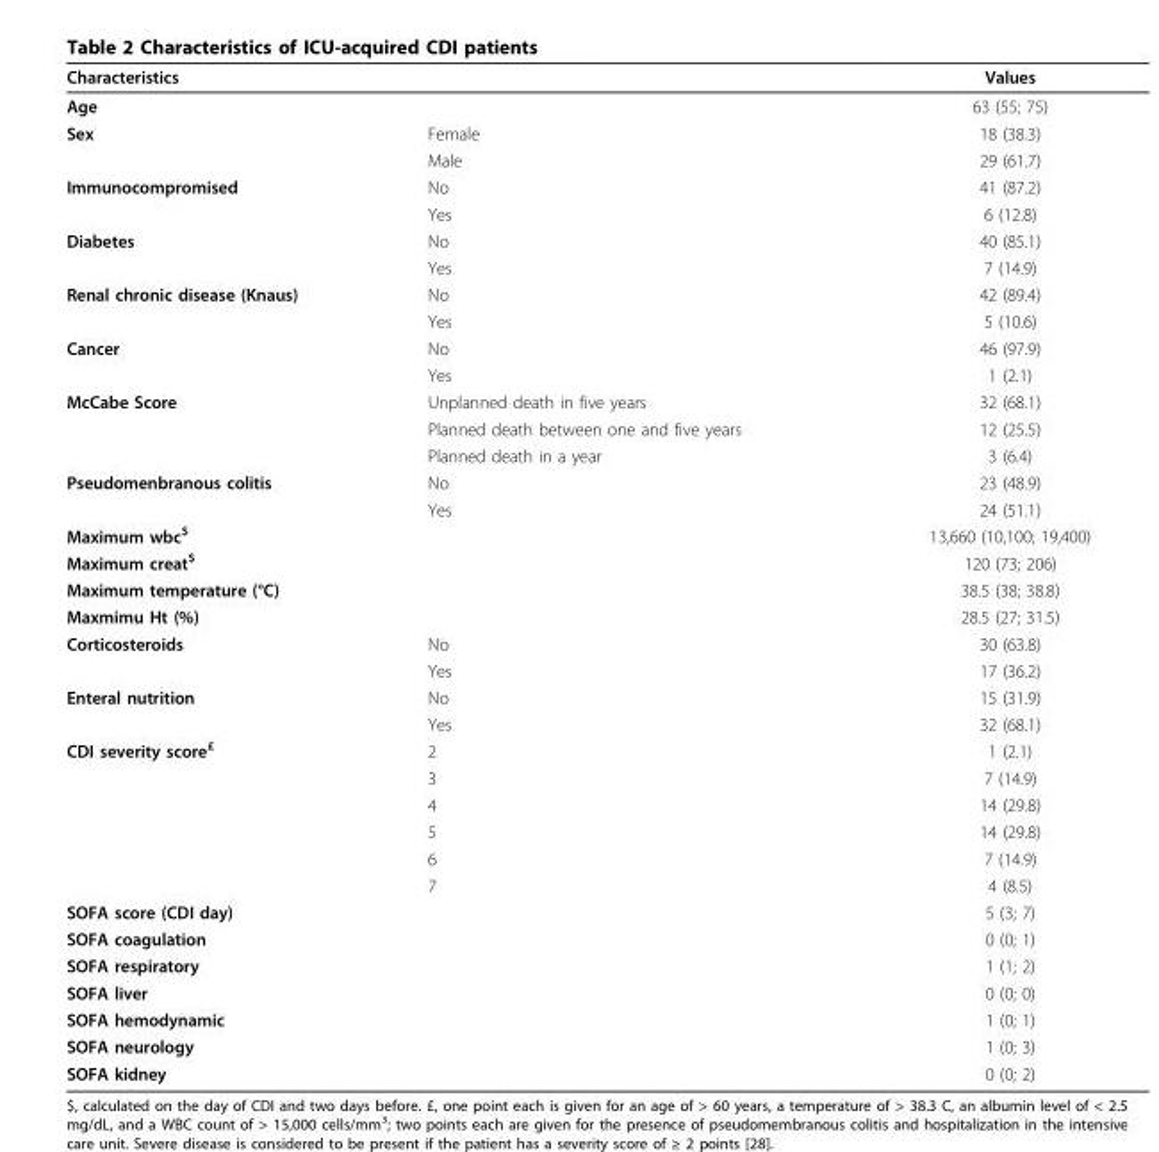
<table><thead><tr><td>Characteristics</td><td></td><td>Values</td></tr></thead><tbody><tr><td>Age</td><td></td><td>63 (55; 75)</td></tr><tr><td rowspan="2">Sex</td><td>Female</td><td>18 (38.3)</td></tr><tr><td>Male</td><td>29 (61.7)</td></tr><tr><td rowspan="2">Immunocompromised</td><td>No</td><td>41 (87.2)</td></tr><tr><td>Yes</td><td>6 (12.8)</td></tr><tr><td rowspan="2">Diabetes</td><td>No</td><td>40 (85.1)</td></tr><tr><td>Yes</td><td>7 (14.9)</td></tr><tr><td rowspan="2">Renal chronic disease (Knaus)</td><td>No</td><td>42 (89.4)</td></tr><tr><td>Yes</td><td>5 (10.6)</td></tr><tr><td rowspan="2">Cancer</td><td>No</td><td>46 (97.9)</td></tr><tr><td>Yes</td><td>1 (2.1)</td></tr><tr><td rowspan="3">McCabe Score</td><td>Unplanned death in five years</td><td>32 (68.1)</td></tr><tr><td>Planned death between one and five years</td><td>12 (25.5)</td></tr><tr><td>Planned death in a year</td><td>3 (6.4)</td></tr><tr><td rowspan="2">Pseudomenbranous colitis</td><td>No</td><td>23 (48.9)</td></tr><tr><td>Yes</td><td>24 (51.1)</td></tr><tr><td>Maximum wbc<sup>$</sup></td><td></td><td>13,660 (10,100; 19,400)</td></tr><tr><td>Maximum creat<sup>$</sup></td><td></td><td>120 (73; 206)</td></tr><tr><td>Maximum temperature (°C)</td><td></td><td>38.5 (38; 38.8)</td></tr><tr><td>Maxmimu Ht (%)</td><td></td><td>28.5 (27; 31.5)</td></tr><tr><td rowspan="2">Corticosteroids</td><td>No</td><td>30 (63.8)</td></tr><tr><td>Yes</td><td>17 (36.2)</td></tr><tr><td rowspan="2">Enteral nutrition</td><td>No</td><td>15 (31.9)</td></tr><tr><td>Yes</td><td>32 (68.1)</td></tr><tr><td rowspan="6">CDI severity score<sup>£</sup></td><td>2</td><td>1 (2.1)</td></tr><tr><td>3</td><td>7 (14.9)</td></tr><tr><td>4</td><td>14 (29.8)</td></tr><tr><td>5</td><td>14 (29.8)</td></tr><tr><td>6</td><td>7 (14.9)</td></tr><tr><td>7</td><td>4 (8.5)</td></tr><tr><td>SOFA score (CDI day)</td><td></td><td>5 (3; 7)</td></tr><tr><td>SOFA coagulation</td><td></td><td>0 (0; 1)</td></tr><tr><td>SOFA respiratory</td><td></td><td>1 (1; 2)</td></tr><tr><td>SOFA liver</td><td></td><td>0 (0; 0)</td></tr><tr><td>SOFA hemodynamic</td><td></td><td>1 (0; 1)</td></tr><tr><td>SOFA neurology</td><td></td><td>1 (0; 3)</td></tr><tr><td>SOFA kidney</td><td></td><td>0 (0; 2)</td></tr></tbody></table>